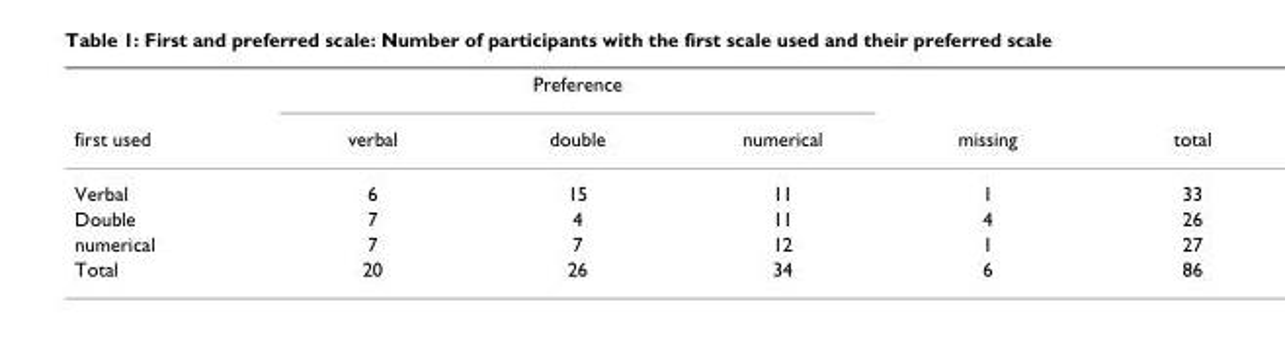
<table><thead><tr><td rowspan="2">first used</td><td colspan="3">Preference</td><td rowspan="2">missing</td><td rowspan="2">total</td></tr><tr><td>verbal</td><td>double</td><td>numerical</td></tr></thead><tbody><tr><td>Verbal</td><td>6</td><td>15</td><td>11</td><td>1</td><td>33</td></tr><tr><td>Double</td><td>7</td><td>4</td><td>11</td><td>4</td><td>26</td></tr><tr><td>numerical</td><td>7</td><td>7</td><td>12</td><td>1</td><td>27</td></tr><tr><td>Total</td><td>20</td><td>26</td><td>34</td><td>6</td><td>86</td></tr></tbody></table>